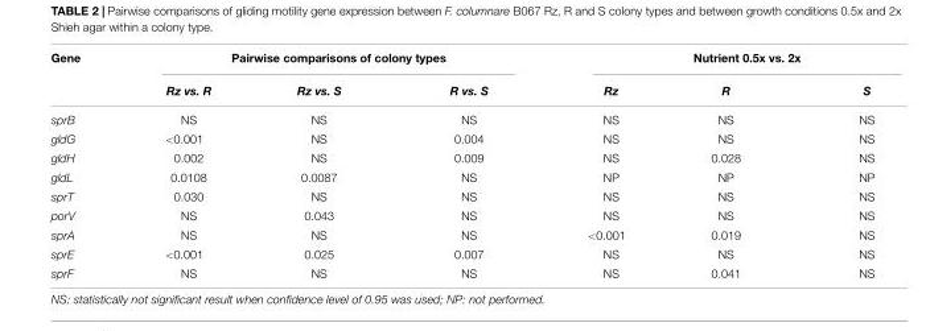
<table><thead><tr><td rowspan="2">Gene</td><td colspan="3">Pairwise comparisons of colony types</td><td colspan="3">Nutrient 0.5x vs. 2x</td></tr><tr><td>Rz vs. R</td><td>Rz vs. S</td><td>R vs. S</td><td>Rz</td><td>R</td><td>S</td></tr></thead><tbody><tr><td>sprB</td><td>NS</td><td>NS</td><td>NS</td><td>NS</td><td>NS</td><td>NS</td></tr><tr><td>gldG</td><td>&lt;0.001</td><td>NS</td><td>0.004</td><td>NS</td><td>NS</td><td>NS</td></tr><tr><td>gldH</td><td>0.002</td><td>NS</td><td>0.009</td><td>NS</td><td>0.028</td><td>NS</td></tr><tr><td>gldL</td><td>0.0108</td><td>0.0087</td><td>NS</td><td>NP</td><td>NP</td><td>NP</td></tr><tr><td>sprT</td><td>0.030</td><td>NS</td><td>NS</td><td>NS</td><td>NS</td><td>NS</td></tr><tr><td>porV</td><td>NS</td><td>0.043</td><td>NS</td><td>NS</td><td>NS</td><td>NS</td></tr><tr><td>sprA</td><td>NS</td><td>NS</td><td>NS</td><td>&lt;0.001</td><td>0.019</td><td>NS</td></tr><tr><td>sprE</td><td>&lt;0.001</td><td>0.025</td><td>0.007</td><td>NS</td><td>NS</td><td>NS</td></tr><tr><td>sprF</td><td>NS</td><td>NS</td><td>NS</td><td>NS</td><td>0.041</td><td>NS</td></tr></tbody></table>